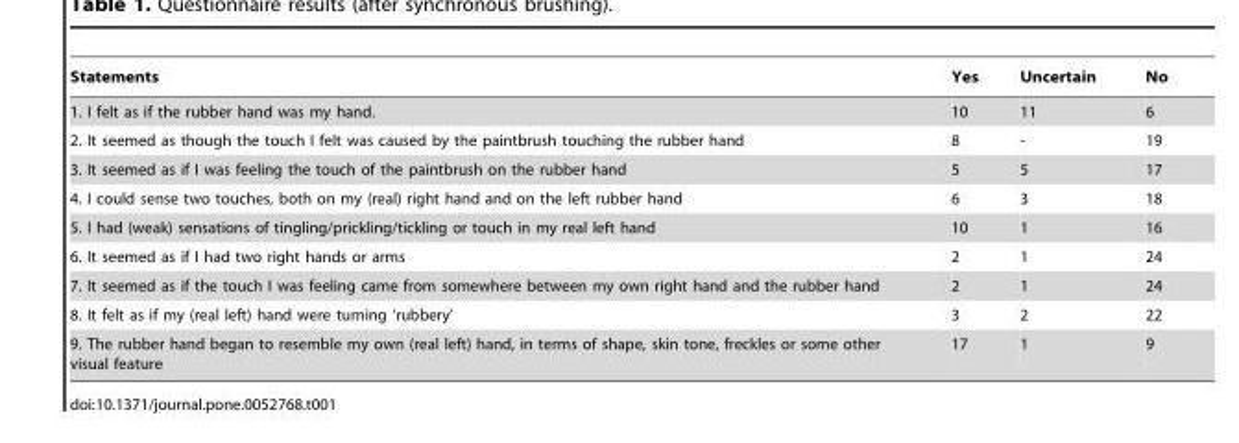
<table><thead><tr><td>Statements</td><td>Yes</td><td>Uncertain</td><td>No</td></tr></thead><tbody><tr><td>1. I felt as if the rubber hand was my hand.</td><td>10</td><td>11</td><td>6</td></tr><tr><td>2. It seemed as though the touch I felt was caused by the paintbrush touching the rubber hand</td><td>8</td><td>-</td><td>19</td></tr><tr><td>3. It seemed as if I was feeling the touch of the paintbrush on the rubber hand</td><td>5</td><td>5</td><td>17</td></tr><tr><td>4. I could sense two touches, both on my (real) right hand and on the left rubber hand</td><td>6</td><td>3</td><td>18</td></tr><tr><td>5. I had (weak) sensations of tingling/prickling/tickling or touch in my real left hand</td><td>10</td><td>1</td><td>16</td></tr><tr><td>6. It seemed as if I had two right hands or arms</td><td>2</td><td>1</td><td>24</td></tr><tr><td>7. It seemed as if the touch I was feeling came from somewhere between my own right hand and the rubber hand</td><td>2</td><td>1</td><td>24</td></tr><tr><td>8. It felt as if my (real left) hand were turning ‘rubbery’</td><td>3</td><td>2</td><td>22</td></tr><tr><td>9. The rubber hand began to resemble my own (real left) hand, in terms of shape, skin tone, freckles or some other visual feature</td><td>17</td><td>1</td><td>9</td></tr></tbody></table>